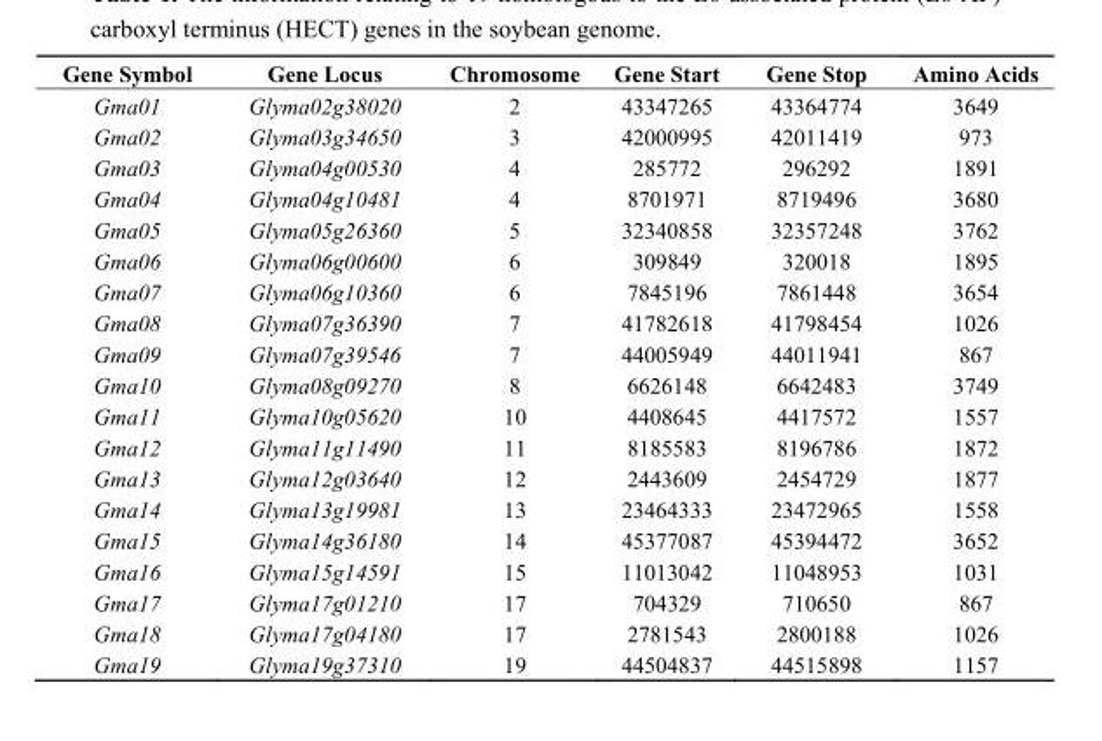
<table><thead><tr><td>Gene Symbol</td><td>Gene Locus</td><td>Chromosome</td><td>Gene Start</td><td>Gene Stop</td><td>Amino Acids</td></tr></thead><tbody><tr><td>Gma01</td><td>Glyma02g38020</td><td>2</td><td>43347265</td><td>43364774</td><td>3649</td></tr><tr><td>Gma02</td><td>Glyma03g34650</td><td>3</td><td>42000995</td><td>42011419</td><td>973</td></tr><tr><td>Gma03</td><td>Glyma04g00530</td><td>4</td><td>285772</td><td>296292</td><td>1891</td></tr><tr><td>Gma04</td><td>Glyma04g10481</td><td>4</td><td>8701971</td><td>8719496</td><td>3680</td></tr><tr><td>Gma05</td><td>Glyma05g26360</td><td>5</td><td>32340858</td><td>32357248</td><td>3762</td></tr><tr><td>Gma06</td><td>Glyma06g00600</td><td>6</td><td>309849</td><td>320018</td><td>1895</td></tr><tr><td>Gma07</td><td>Glyma06g10360</td><td>6</td><td>7845196</td><td>7861448</td><td>3654</td></tr><tr><td>Gma08</td><td>Glyma07g36390</td><td>7</td><td>41782618</td><td>41798454</td><td>1026</td></tr><tr><td>Gma09</td><td>Glyma07g39546</td><td>7</td><td>44005949</td><td>44011941</td><td>867</td></tr><tr><td>Gma10</td><td>Glyma08g09270</td><td>8</td><td>6626148</td><td>6642483</td><td>3749</td></tr><tr><td>Gma11</td><td>Glyma10g05620</td><td>10</td><td>4408645</td><td>4417572</td><td>1557</td></tr><tr><td>Gma12</td><td>Glyma11g11490</td><td>11</td><td>8185583</td><td>8196786</td><td>1872</td></tr><tr><td>Gma13</td><td>Glyma12g03640</td><td>12</td><td>2443609</td><td>2454729</td><td>1877</td></tr><tr><td>Gma14</td><td>Glyma13g19981</td><td>13</td><td>23464333</td><td>23472965</td><td>1558</td></tr><tr><td>Gma15</td><td>Glyma14g36180</td><td>14</td><td>45377087</td><td>45394472</td><td>3652</td></tr><tr><td>Gma16</td><td>Glyma15g14591</td><td>15</td><td>11013042</td><td>11048953</td><td>1031</td></tr><tr><td>Gma17</td><td>Glyma17g01210</td><td>17</td><td>704329</td><td>710650</td><td>867</td></tr><tr><td>Gma18</td><td>Glyma17g04180</td><td>17</td><td>2781543</td><td>2800188</td><td>1026</td></tr><tr><td>Gma19</td><td>Glyma19g37310</td><td>19</td><td>44504837</td><td>44515898</td><td>1157</td></tr></tbody></table>